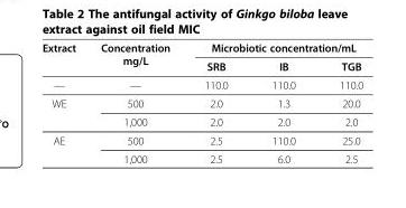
<table><thead><tr><td rowspan="2">Extract</td><td rowspan="2">Concentration mg/L</td><td colspan="3">Microbiotic concentration/mL</td></tr><tr><td>SRB</td><td>IB</td><td>TGB</td></tr></thead><tbody><tr><td>—</td><td>—</td><td>110.0</td><td>110.0</td><td>110.0</td></tr><tr><td rowspan="2">WE</td><td>500</td><td>2.0</td><td>1.3</td><td>20.0</td></tr><tr><td>1,000</td><td>2.0</td><td>2.0</td><td>2.0</td></tr><tr><td rowspan="2">AE</td><td>500</td><td>2.5</td><td>110.0</td><td>25.0</td></tr><tr><td>1,000</td><td>2.5</td><td>6.0</td><td>2.5</td></tr></tbody></table>